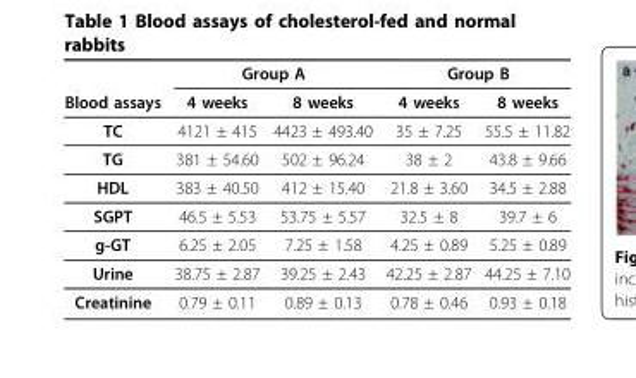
<table><thead><tr><td rowspan="2">Blood assays</td><td colspan="2">Group A</td><td colspan="2">Group B</td></tr><tr><td>4 weeks</td><td>8 weeks</td><td>4 weeks</td><td>8 weeks</td></tr></thead><tbody><tr><td>TC</td><td>4121 ± 415</td><td>4423 ± 493.40</td><td>35 ± 7.25</td><td>55.5 ± 11.82</td></tr><tr><td>TG</td><td>381 ± 54.60</td><td>502 ± 96.24</td><td>38 ± 2</td><td>43.8 ± 9.66</td></tr><tr><td>HDL</td><td>383 ± 40.50</td><td>412 ± 15.40</td><td>21.8 ± 3.60</td><td>34.5 ± 2.88</td></tr><tr><td>SGPT</td><td>46.5 ± 5.53</td><td>53.75 ± 5.57</td><td>32.5 ± 8</td><td>39.7 ± 6</td></tr><tr><td>g-GT</td><td>6.25 ± 2.05</td><td>7.25 ± 1.58</td><td>4.25 ± 0.89</td><td>5.25 ± 0.89</td></tr><tr><td>Urine</td><td>38.75 ± 2.87</td><td>39.25 ± 2.43</td><td>42.25 ± 2.87</td><td>44.25 ± 7.10</td></tr><tr><td>Creatinine</td><td>0.79 ± 0.11</td><td>0.89 ± 0.13</td><td>0.78 ± 0.46</td><td>0.93 ± 0.18</td></tr></tbody></table>